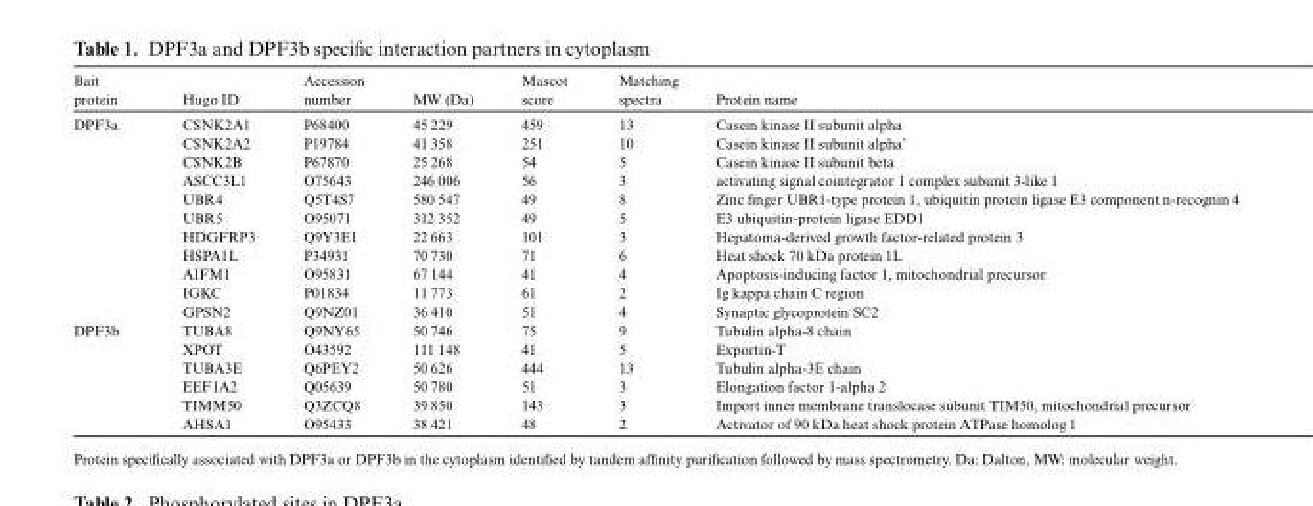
<table><thead><tr><td>Bait protein</td><td>Hugo ID</td><td>Accession number</td><td>MW (Da)</td><td>Mascot score</td><td>Matching spectra</td><td>Protein name</td></tr></thead><tbody><tr><td rowspan="11">DPF3a</td><td>CSNK2A1</td><td>P68400</td><td>45 229</td><td>459</td><td>13</td><td>Casein kinase II subunit alpha</td></tr><tr><td>CSNK2A2</td><td>P19784</td><td>41 358</td><td>251</td><td>10</td><td>Casein kinase II subunit alpha’</td></tr><tr><td>CSNK2B</td><td>P67870</td><td>25 268</td><td>54</td><td>5</td><td>Casein kinase II subunit beta</td></tr><tr><td>ASCC3L1</td><td>O75643</td><td>246 006</td><td>56</td><td>3</td><td>activating signal cointegrator 1 complex subunit 3-like 1</td></tr><tr><td>UBR4</td><td>Q5T4S7</td><td>580 547</td><td>49</td><td>8</td><td>Zinc finger UBR1-type protein 1, ubiquitin protein ligase E3 component n-recognin 4</td></tr><tr><td>UBR5</td><td>O95071</td><td>312 352</td><td>49</td><td>5</td><td>E3 ubiquitin-protein ligase EDD1</td></tr><tr><td>HDGFRP3</td><td>Q9Y3E1</td><td>22 663</td><td>101</td><td>3</td><td>Hepatoma-derived growth factor-related protein 3</td></tr><tr><td>HSPA1L</td><td>P34931</td><td>70 730</td><td>71</td><td>6</td><td>Heat shock 70 kDa protein 1L</td></tr><tr><td>AIFM1</td><td>O95831</td><td>67 144</td><td>41</td><td>4</td><td>Apoptosis-inducing factor 1, mitochondrial precursor</td></tr><tr><td>IGKC</td><td>P01834</td><td>11 773</td><td>61</td><td>2</td><td>Ig kappa chain C region</td></tr><tr><td>GPSN2</td><td>Q9NZ01</td><td>36 410</td><td>51</td><td>4</td><td>Synaptic glycoprotein SC2</td></tr><tr><td rowspan="6">DPF3b</td><td>TUBA8</td><td>Q9NY65</td><td>50 746</td><td>75</td><td>9</td><td>Tubulin alpha-8 chain</td></tr><tr><td>XPOT</td><td>O43592</td><td>111 148</td><td>41</td><td>5</td><td>Exportin-T</td></tr><tr><td>TUBA3E</td><td>Q6PEY2</td><td>50 626</td><td>444</td><td>13</td><td>Tubulin alpha-3E chain</td></tr><tr><td>EEF1A2</td><td>Q05639</td><td>50 780</td><td>51</td><td>3</td><td>Elongation factor 1-alpha 2</td></tr><tr><td>TIMM50</td><td>Q3ZCQ8</td><td>39 850</td><td>143</td><td>3</td><td>Import inner membrane translocase subunit TIM50, mitochondrial precursor</td></tr><tr><td>AHSA1</td><td>O95433</td><td>38 421</td><td>48</td><td>2</td><td>Activator of 90 kDa heat shock protein ATPase homolog 1</td></tr></tbody></table>